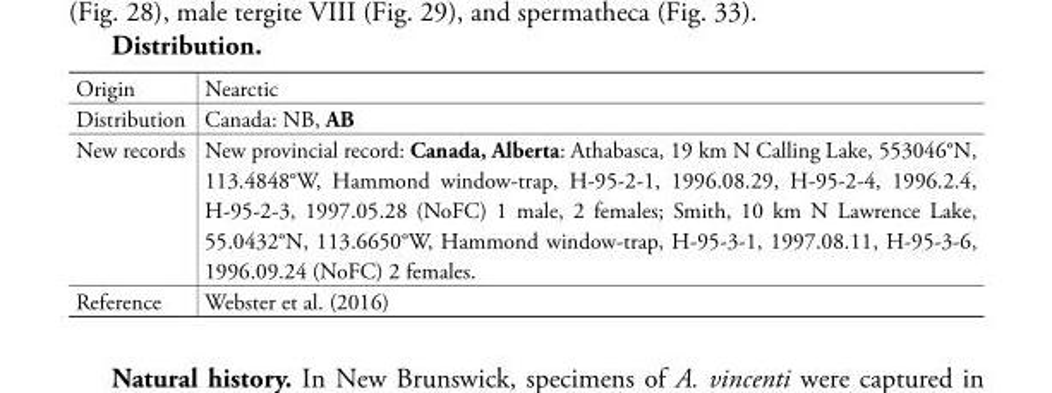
<table><tbody><tr><td>Origin</td><td>Nearctic</td></tr><tr><td>Distribution</td><td>Canada: NB, AB</td></tr><tr><td>New records</td><td>New provincial record: Canada, Alberta: Athabasca, 19 km N Calling Lake, 553046°N, 113.4848°W, Hammond window-trap, H-95-2-1, 1996.08.29, H-95-2-4, 1996.2.4, H-95-2-3, 1997.05.28 (NoFC) 1 male, 2 females; Smith, 10 km N Lawrence Lake, 55.0432°N, 113.6650°W, Hammond window-trap, H-95-3-1, 1997.08.11, H-95-3-6, 1996.09.24 (NoFC) 2 females.</td></tr><tr><td>Reference</td><td>Webster et al. (2016)</td></tr></tbody></table>